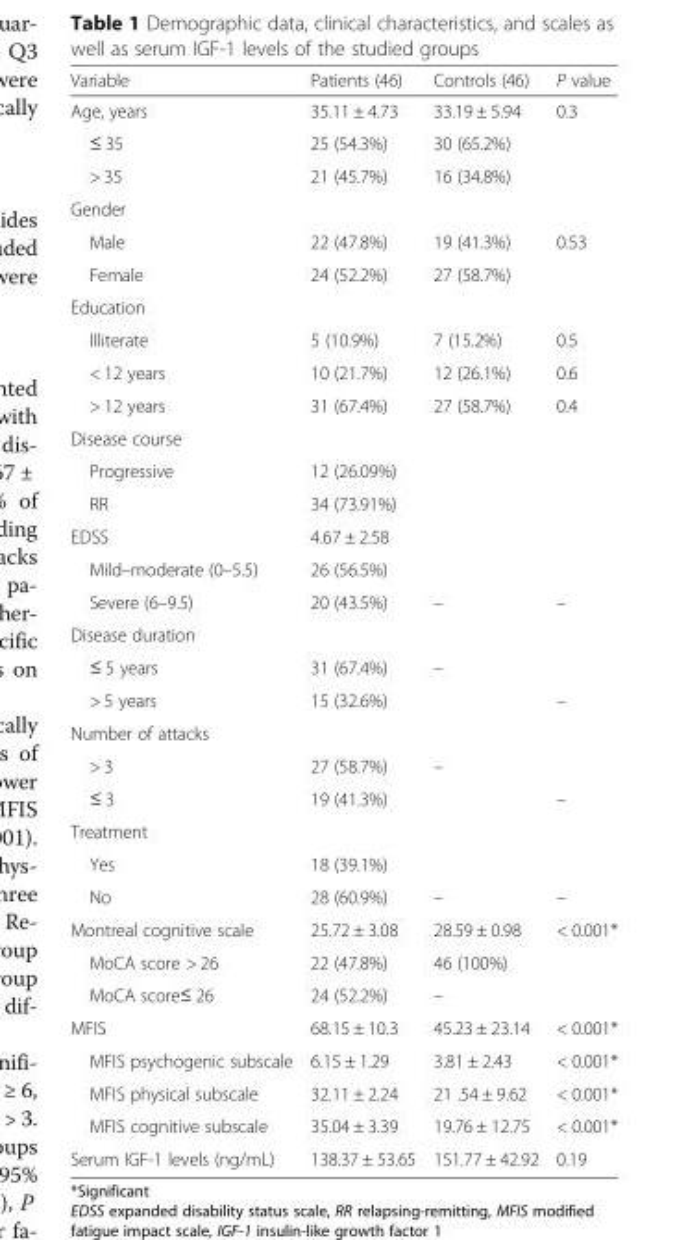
<table><thead><tr><td>Variable</td><td>Patients (46)</td><td>Controls (46)</td><td>P value</td></tr></thead><tbody><tr><td>Age, years</td><td>35.11 ± 4.73</td><td>33.19 ± 5.94</td><td rowspan="3">0.3</td></tr><tr><td>≤ 35</td><td>25 (54.3%)</td><td>30 (65.2%)</td></tr><tr><td>&gt; 35</td><td>21 (45.7%)</td><td>16 (34.8%)</td></tr><tr><td colspan="4">Gender</td></tr><tr><td>Male</td><td>22 (47.8%)</td><td>19 (41.3%)</td><td rowspan="2">0.53</td></tr><tr><td>Female</td><td>24 (52.2%)</td><td>27 (58.7%)</td></tr><tr><td colspan="4">Education</td></tr><tr><td>Illiterate</td><td>5 (10.9%)</td><td>7 (15.2%)</td><td>0.5</td></tr><tr><td>&lt; 12 years</td><td>10 (21.7%)</td><td>12 (26.1%)</td><td>0.6</td></tr><tr><td>&gt; 12 years</td><td>31 (67.4%)</td><td>27 (58.7%)</td><td>0.4</td></tr><tr><td colspan="4">Disease course</td></tr><tr><td>Progressive</td><td>12 (26.09%)</td><td></td><td></td></tr><tr><td>RR</td><td>34 (73.91%)</td><td></td><td></td></tr><tr><td>EDSS</td><td>4.67 ± 2.58</td><td></td><td></td></tr><tr><td>Mild–moderate (0–5.5)</td><td>26 (56.5%)</td><td></td><td></td></tr><tr><td>Severe (6–9.5)</td><td>20 (43.5%)</td><td>–</td><td>–</td></tr><tr><td colspan="4">Disease duration</td></tr><tr><td>≤ 5 years</td><td>31 (67.4%)</td><td>–</td><td></td></tr><tr><td>&gt; 5 years</td><td>15 (32.6%)</td><td></td><td>–</td></tr><tr><td colspan="4">Number of attacks</td></tr><tr><td>&gt; 3</td><td>27 (58.7%)</td><td>–</td><td></td></tr><tr><td>≤ 3</td><td>19 (41.3%)</td><td></td><td>–</td></tr><tr><td colspan="4">Treatment</td></tr><tr><td>Yes</td><td>18 (39.1%)</td><td></td><td></td></tr><tr><td>No</td><td>28 (60.9%)</td><td>–</td><td>–</td></tr><tr><td>Montreal cognitive scale</td><td>25.72 ± 3.08</td><td>28.59 ± 0.98</td><td rowspan="3">&lt; 0.001*</td></tr><tr><td>MoCA score &gt; 26</td><td>22 (47.8%)</td><td>46 (100%)</td></tr><tr><td>MoCA score≤ 26</td><td>24 (52.2%)</td><td>–</td></tr><tr><td>MFIS</td><td>68.15 ± 10.3</td><td>45.23 ± 23.14</td><td>&lt; 0.001*</td></tr><tr><td>MFIS psychogenic subscale</td><td>6.15 ± 1.29</td><td>3.81 ± 2.43</td><td>&lt; 0.001*</td></tr><tr><td>MFIS physical subscale</td><td>32.11 ± 2.24</td><td>21 .54 ± 9.62</td><td>&lt; 0.001*</td></tr><tr><td>MFIS cognitive subscale</td><td>35.04 ± 3.39</td><td>19.76 ± 12.75</td><td>&lt; 0.001*</td></tr><tr><td>Serum IGF-1 levels (ng/mL)</td><td>138.37 ± 53.65</td><td>151.77 ± 42.92</td><td>0.19</td></tr></tbody></table>